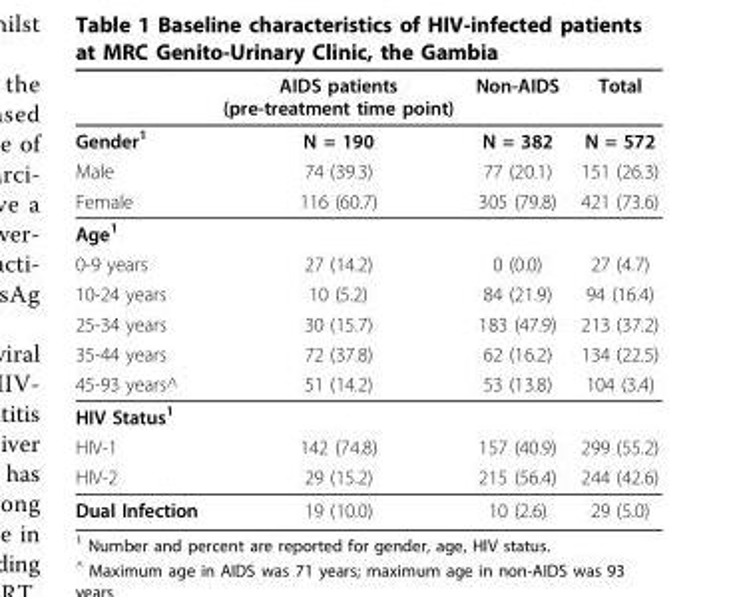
<table><thead><tr><td></td><td>AIDS patients (pre-treatment time point)</td><td>Non-AIDS</td><td>Total</td></tr></thead><tbody><tr><td>Gender<sup>1</sup></td><td>N = 190</td><td>N = 382</td><td>N = 572</td></tr><tr><td>Male</td><td>74 (39.3)</td><td>77 (20.1)</td><td>151 (26.3)</td></tr><tr><td>Female</td><td>116 (60.7)</td><td>305 (79.8)</td><td>421 (73.6)</td></tr><tr><td colspan="4">Age<sup>1</sup></td></tr><tr><td>0-9 years</td><td>27 (14.2)</td><td>0 (0.0)</td><td>27 (4.7)</td></tr><tr><td>10-24 years</td><td>10 (5.2)</td><td>84 (21.9)</td><td>94 (16.4)</td></tr><tr><td>25-34 years</td><td>30 (15.7)</td><td>183 (47.9)</td><td>213 (37.2)</td></tr><tr><td>35-44 years</td><td>72 (37.8)</td><td>62 (16.2)</td><td>134 (22.5)</td></tr><tr><td>45-93 years^</td><td>51 (14.2)</td><td>53 (13.8)</td><td>104 (3.4)</td></tr><tr><td colspan="4">HIV Status<sup>1</sup></td></tr><tr><td>HIV-1</td><td>142 (74.8)</td><td>157 (40.9)</td><td>299 (55.2)</td></tr><tr><td>HIV-2</td><td>29 (15.2)</td><td>215 (56.4)</td><td>244 (42.6)</td></tr><tr><td>Dual Infection</td><td>19 (10.0)</td><td>10 (2.6)</td><td>29 (5.0)</td></tr></tbody></table>